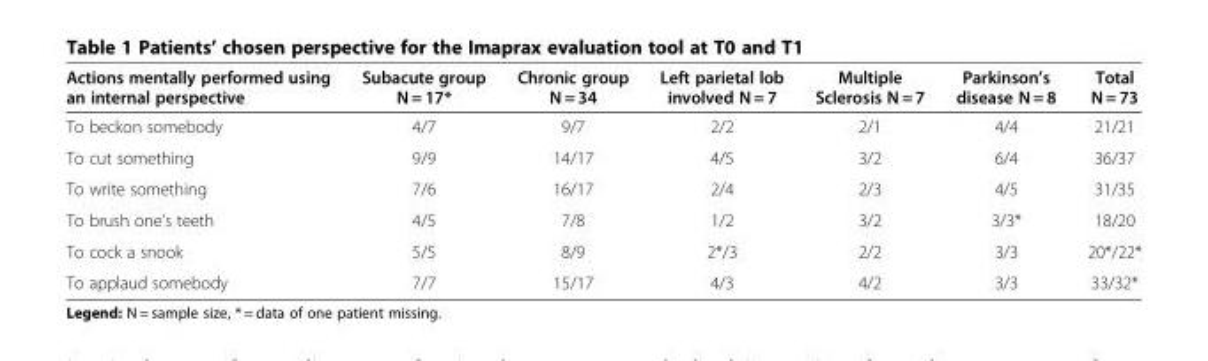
<table><thead><tr><td>Actions mentally performed using an internal perspective</td><td>Subacute group N = 17*</td><td>Chronic group N = 34</td><td>Left parietal lob involved N = 7</td><td>Multiple Sclerosis N = 7</td><td>Parkinson’s disease N = 8</td><td>Total N = 73</td></tr></thead><tbody><tr><td>To beckon somebody</td><td>4/7</td><td>9/7</td><td>2/2</td><td>2/1</td><td>4/4</td><td>21/21</td></tr><tr><td>To cut something</td><td>9/9</td><td>14/17</td><td>4/5</td><td>3/2</td><td>6/4</td><td>36/37</td></tr><tr><td>To write something</td><td>7/6</td><td>16/17</td><td>2/4</td><td>2/3</td><td>4/5</td><td>31/35</td></tr><tr><td>To brush one’s teeth</td><td>4/5</td><td>7/8</td><td>1/2</td><td>3/2</td><td>3/3*</td><td>18/20</td></tr><tr><td>To cock a snook</td><td>5/5</td><td>8/9</td><td>2*/3</td><td>2/2</td><td>3/3</td><td>20*/22*</td></tr><tr><td>To applaud somebody</td><td>7/7</td><td>15/17</td><td>4/3</td><td>4/2</td><td>3/3</td><td>33/32*</td></tr></tbody></table>